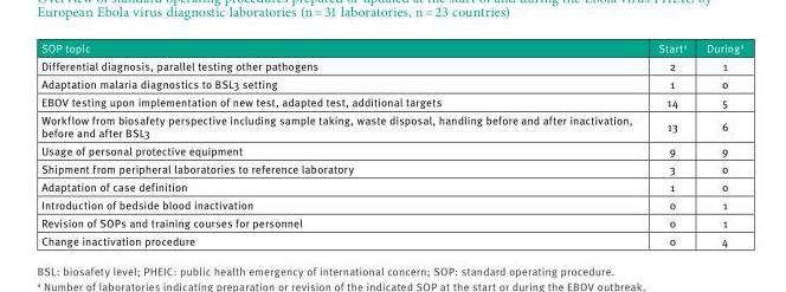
<table><thead><tr><td>SOP topic</td><td>Start<sup>a</sup></td><td>During<sup>a</sup></td></tr></thead><tbody><tr><td>Differential diagnosis, parallel testing other pathogens</td><td>2</td><td>1</td></tr><tr><td>Adaptation malaria diagnostics to BSL3 setting</td><td>1</td><td>0</td></tr><tr><td>EBOV testing upon implementation of new test, adapted test, additional targets</td><td>14</td><td>5</td></tr><tr><td>Workflow from biosafety perspective including sample taking, waste disposal, handling before and after inactivation, before and after BSL3</td><td>13</td><td>6</td></tr><tr><td>Usage of personal protective equipment</td><td>9</td><td>9</td></tr><tr><td>Shipment from peripheral laboratories to reference laboratory</td><td>3</td><td>0</td></tr><tr><td>Adaptation of case definition</td><td>1</td><td>0</td></tr><tr><td>Introduction of bedside blood inactivation</td><td>0</td><td>1</td></tr><tr><td>Revision of SOPs and training courses for personnel</td><td>0</td><td>1</td></tr><tr><td>Change inactivation procedure</td><td>0</td><td>4</td></tr></tbody></table>